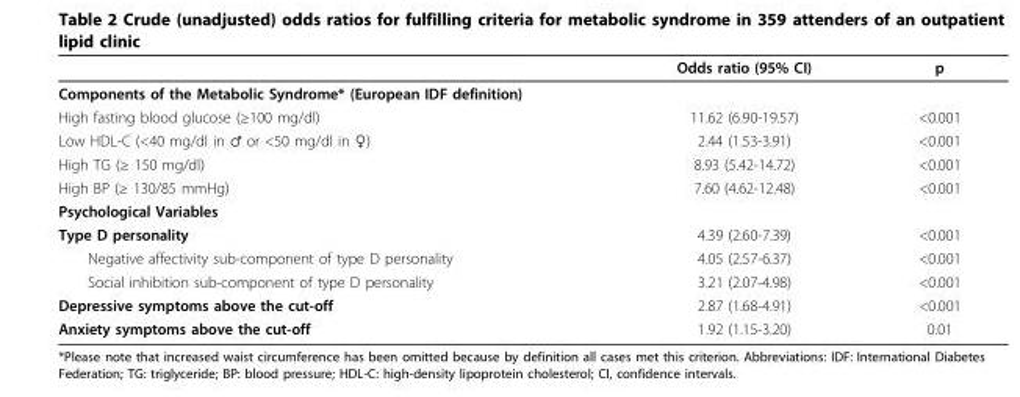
<table><thead><tr><td></td><td>Odds ratio (95% CI)</td><td>p</td></tr></thead><tbody><tr><td colspan="3">Components of the Metabolic Syndrome* (European IDF definition)</td></tr><tr><td>High fasting blood glucose (≥100 mg/dl)</td><td>11.62 (6.90-19.57)</td><td>&lt;0.001</td></tr><tr><td>Low HDL-C (&lt;40 mg/dl in ♂ or &lt;50 mg/dl in ♀)</td><td>2.44 (1.53-3.91)</td><td>&lt;0.001</td></tr><tr><td>High TG (≥ 150 mg/dl)</td><td>8.93 (5.42-14.72)</td><td>&lt;0.001</td></tr><tr><td>High BP (≥ 130/85 mmHg)</td><td>7.60 (4.62-12.48)</td><td>&lt;0.001</td></tr><tr><td colspan="3">Psychological Variables</td></tr><tr><td>Type D personality</td><td>4.39 (2.60-7.39)</td><td>&lt;0.001</td></tr><tr><td>Negative affectivity sub-component of type D personality</td><td>4.05 (2.57-6.37)</td><td>&lt;0.001</td></tr><tr><td>Social inhibition sub-component of type D personality</td><td>3.21 (2.07-4.98)</td><td>&lt;0.001</td></tr><tr><td>Depressive symptoms above the cut-off</td><td>2.87 (1.68-4.91)</td><td>&lt;0.001</td></tr><tr><td>Anxiety symptoms above the cut-off</td><td>1.92 (1.15-3.20)</td><td>0.01</td></tr></tbody></table>